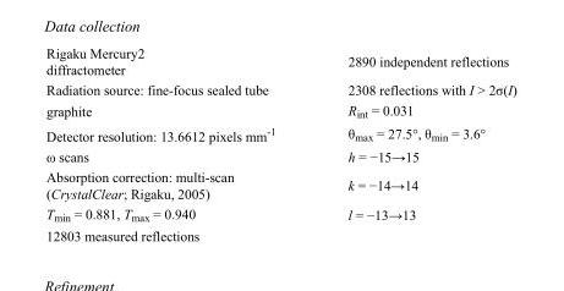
<table><tbody><tr><td>Rigaku Mercury2 diffractometer</td><td>2890 independent reflections</td></tr><tr><td>Radiation source: fine-focus sealed tube</td><td>2308 reflections with I &gt; 2σ(I)</td></tr><tr><td>graphite</td><td>R<sub>int</sub> = 0.031</td></tr><tr><td>Detector resolution: 13.6612 pixels mm<sup>-1</sup></td><td>θ<sub>max</sub> = 27.5°, θ<sub>min</sub> = 3.6°</td></tr><tr><td>ω scans</td><td>h = −15→15</td></tr><tr><td>Absorption correction: multi-scan (CrystalClear; Rigaku, 2005)</td><td>k = −14→14</td></tr><tr><td>T<sub>min</sub> = 0.881, T<sub>max</sub> = 0.940</td><td>l = −13→13</td></tr><tr><td>12803 measured reflections</td><td></td></tr></tbody></table>